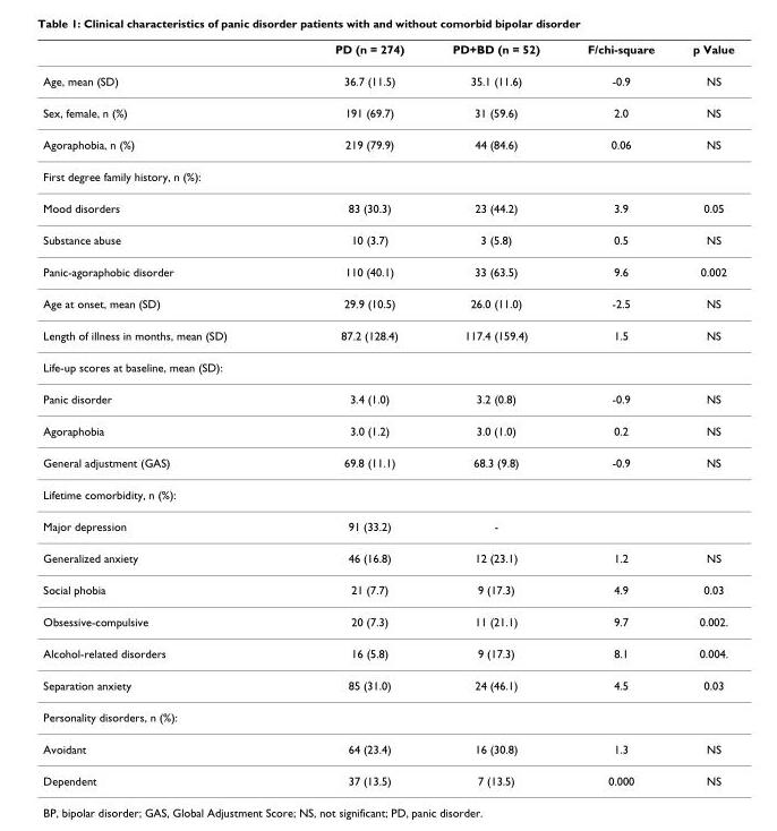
<table><thead><tr><td></td><td>PD (n = 274)</td><td>PD+BD (n = 52)</td><td>F/chi-square</td><td>p Value</td></tr></thead><tbody><tr><td>Age, mean (SD)</td><td>36.7 (11.5)</td><td>35.1 (11.6)</td><td>-0.9</td><td>NS</td></tr><tr><td>Sex, female, n (%)</td><td>191 (69.7)</td><td>31 (59.6)</td><td>2.0</td><td>NS</td></tr><tr><td>Agoraphobia, n (%)</td><td>219 (79.9)</td><td>44 (84.6)</td><td>0.06</td><td>NS</td></tr><tr><td colspan="5">First degree family history, n (%):</td></tr><tr><td>Mood disorders</td><td>83 (30.3)</td><td>23 (44.2)</td><td>3.9</td><td>0.05</td></tr><tr><td>Substance abuse</td><td>10 (3.7)</td><td>3 (5.8)</td><td>0.5</td><td>NS</td></tr><tr><td>Panic-agoraphobic disorder</td><td>110 (40.1)</td><td>33 (63.5)</td><td>9.6</td><td>0.002</td></tr><tr><td>Age at onset, mean (SD)</td><td>29.9 (10.5)</td><td>26.0 (11.0)</td><td>-2.5</td><td>NS</td></tr><tr><td>Length of illness in months, mean (SD)</td><td>87.2 (128.4)</td><td>117.4 (159.4)</td><td>1.5</td><td>NS</td></tr><tr><td colspan="5">Life-up scores at baseline, mean (SD):</td></tr><tr><td>Panic disorder</td><td>3.4 (1.0)</td><td>3.2 (0.8)</td><td>-0.9</td><td>NS</td></tr><tr><td>Agoraphobia</td><td>3.0 (1.2)</td><td>3.0 (1.0)</td><td>0.2</td><td>NS</td></tr><tr><td>General adjustment (GAS)</td><td>69.8 (11.1)</td><td>68.3 (9.8)</td><td>-0.9</td><td>NS</td></tr><tr><td colspan="5">Lifetime comorbidity, n (%):</td></tr><tr><td>Major depression</td><td>91 (33.2)</td><td>-</td><td></td><td></td></tr><tr><td>Generalized anxiety</td><td>46 (16.8)</td><td>12 (23.1)</td><td>1.2</td><td>NS</td></tr><tr><td>Social phobia</td><td>21 (7.7)</td><td>9 (17.3)</td><td>4.9</td><td>0.03</td></tr><tr><td>Obsessive-compulsive</td><td>20 (7.3)</td><td>11 (21.1)</td><td>9.7</td><td>0.002.</td></tr><tr><td>Alcohol-related disorders</td><td>16 (5.8)</td><td>9 (17.3)</td><td>8.1</td><td>0.004.</td></tr><tr><td>Separation anxiety</td><td>85 (31.0)</td><td>24 (46.1)</td><td>4.5</td><td>0.03</td></tr><tr><td colspan="5">Personality disorders, n (%):</td></tr><tr><td>Avoidant</td><td>64 (23.4)</td><td>16 (30.8)</td><td>1.3</td><td>NS</td></tr><tr><td>Dependent</td><td>37 (13.5)</td><td>7 (13.5)</td><td>0.000</td><td>NS</td></tr></tbody></table>